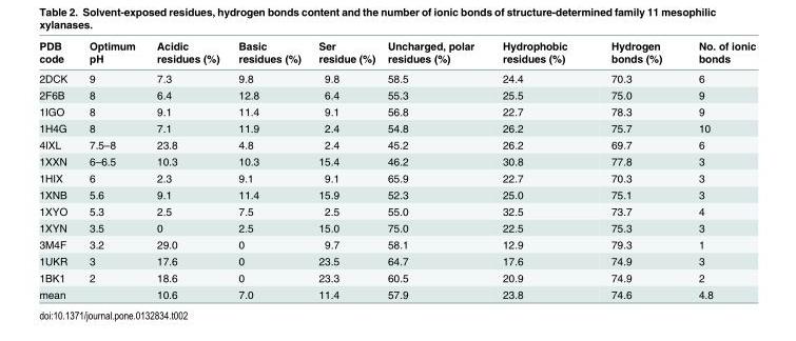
<table><thead><tr><td>PDB code</td><td>Optimum pH</td><td>Acidic residues (%)</td><td>Basic residues (%)</td><td>Ser residue (%)</td><td>Uncharged, polar residues (%)</td><td>Hydrophobic residues (%)</td><td>Hydrogen bonds (%)</td><td>No. of ionic bonds</td></tr></thead><tbody><tr><td>2DCK</td><td>9</td><td>7.3</td><td>9.8</td><td>9.8</td><td>58.5</td><td>24.4</td><td>70.3</td><td>6</td></tr><tr><td>2F6B</td><td>8</td><td>6.4</td><td>12.8</td><td>6.4</td><td>55.3</td><td>25.5</td><td>75.0</td><td>9</td></tr><tr><td>1IGO</td><td>8</td><td>9.1</td><td>11.4</td><td>9.1</td><td>56.8</td><td>22.7</td><td>78.3</td><td>9</td></tr><tr><td>1H4G</td><td>8</td><td>7.1</td><td>11.9</td><td>2.4</td><td>54.8</td><td>26.2</td><td>75.7</td><td>10</td></tr><tr><td>4IXL</td><td>7.5–8</td><td>23.8</td><td>4.8</td><td>2.4</td><td>45.2</td><td>26.2</td><td>69.7</td><td>6</td></tr><tr><td>1XXN</td><td>6–6.5</td><td>10.3</td><td>10.3</td><td>15.4</td><td>46.2</td><td>30.8</td><td>77.8</td><td>3</td></tr><tr><td>1HIX</td><td>6</td><td>2.3</td><td>9.1</td><td>9.1</td><td>65.9</td><td>22.7</td><td>70.3</td><td>3</td></tr><tr><td>1XNB</td><td>5.6</td><td>9.1</td><td>11.4</td><td>15.9</td><td>52.3</td><td>25.0</td><td>75.1</td><td>3</td></tr><tr><td>1XYO</td><td>5.3</td><td>2.5</td><td>7.5</td><td>2.5</td><td>55.0</td><td>32.5</td><td>73.7</td><td>4</td></tr><tr><td>1XYN</td><td>3.5</td><td>0</td><td>2.5</td><td>15.0</td><td>75.0</td><td>22.5</td><td>75.3</td><td>3</td></tr><tr><td>3M4F</td><td>3.2</td><td>29.0</td><td>0</td><td>9.7</td><td>58.1</td><td>12.9</td><td>79.3</td><td>1</td></tr><tr><td>1UKR</td><td>3</td><td>17.6</td><td>0</td><td>23.5</td><td>64.7</td><td>17.6</td><td>74.9</td><td>3</td></tr><tr><td>1BK1</td><td>2</td><td>18.6</td><td>0</td><td>23.3</td><td>60.5</td><td>20.9</td><td>74.9</td><td>2</td></tr><tr><td>mean</td><td></td><td>10.6</td><td>7.0</td><td>11.4</td><td>57.9</td><td>23.8</td><td>74.6</td><td>4.8</td></tr></tbody></table>